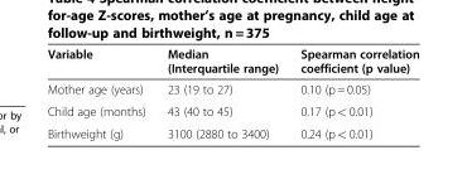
<table><thead><tr><td>Variable</td><td>Median (Interquartile range)</td><td>Spearman correlation coefficient (p value)</td></tr></thead><tbody><tr><td>Mother age (years)</td><td>23 (19 to 27)</td><td>0.10 (p = 0.05)</td></tr><tr><td>Child age (months)</td><td>43 (40 to 45)</td><td>0.17 (p &lt; 0.01)</td></tr><tr><td>Birthweight (g)</td><td>3100 (2880 to 3400)</td><td>0.24 (p &lt; 0.01)</td></tr></tbody></table>